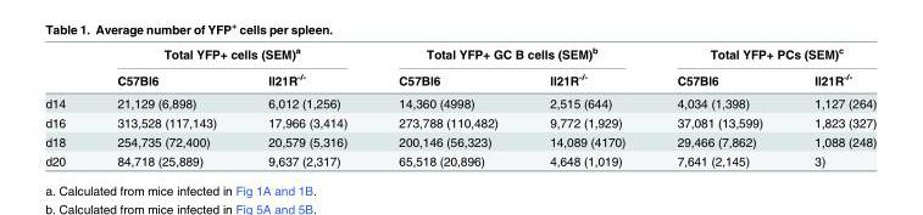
<table><thead><tr><td rowspan="2"></td><td colspan="2">Total YFP+ cells (SEM)<sup>a</sup></td><td colspan="2">Total YFP+ GC B cells (SEM)<sup>b</sup></td><td colspan="2">Total YFP+ PCs (SEM)<sup>c</sup></td></tr><tr><td>C57Bl6</td><td>Il21R<sup>-/-</sup></td><td>C57Bl6</td><td>Il21R<sup>-/-</sup></td><td>C57Bl6</td><td>Il21R<sup>-/-</sup></td></tr></thead><tbody><tr><td>d14</td><td>21,129 (6,898)</td><td>6,012 (1,256)</td><td>14,360 (4998)</td><td>2,515 (644)</td><td>4,034 (1,398)</td><td>1,127 (264)</td></tr><tr><td>d16</td><td>313,528 (117,143)</td><td>17,966 (3,414)</td><td>273,788 (110,482)</td><td>9,772 (1,929)</td><td>37,081 (13,599)</td><td>1,823 (327)</td></tr><tr><td>d18</td><td>254,735 (72,400)</td><td>20,579 (5,316)</td><td>200,146 (56,323)</td><td>14,089 (4170)</td><td>29,466 (7,862)</td><td>1,088 (248)</td></tr><tr><td>d20</td><td>84,718 (25,889)</td><td>9,637 (2,317)</td><td>65,518 (20,896)</td><td>4,648 (1,019)</td><td>7,641 (2,145)</td><td>3)</td></tr></tbody></table>